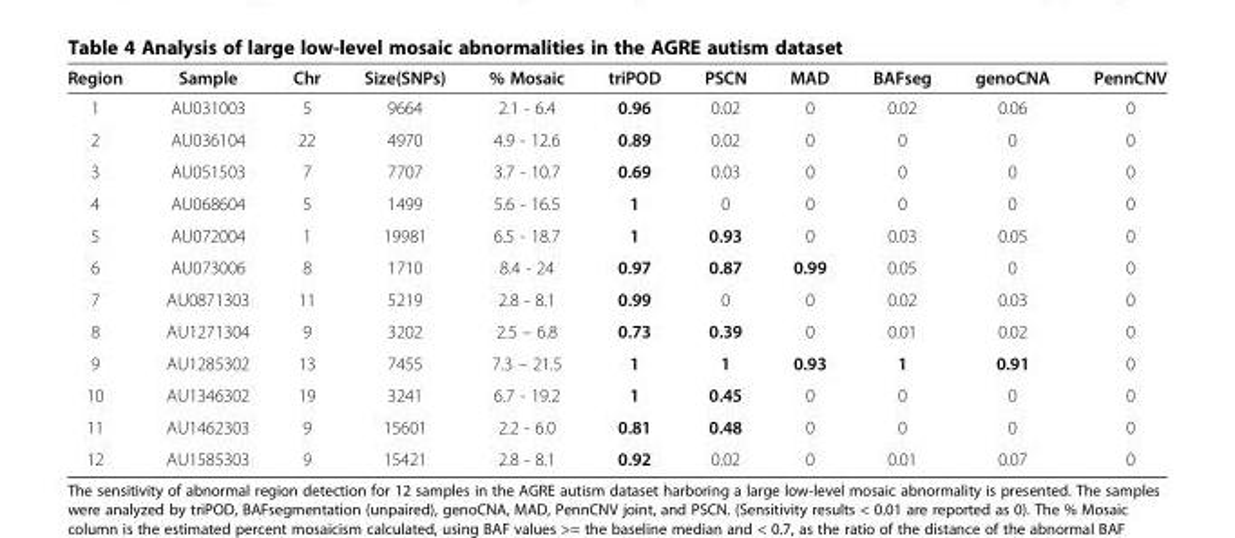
<table><thead><tr><td>Region</td><td>Sample</td><td>Chr</td><td>Size(SNPs)</td><td>% Mosaic</td><td>triPOD</td><td>PSCN</td><td>MAD</td><td>BAFseg</td><td>genoCNA</td><td>PennCNV</td></tr></thead><tbody><tr><td>1</td><td>AU031003</td><td>5</td><td>9664</td><td>2.1 - 6.4</td><td>0.96</td><td>0.02</td><td>0</td><td>0.02</td><td>0.06</td><td>0</td></tr><tr><td>2</td><td>AU036104</td><td>22</td><td>4970</td><td>4.9 - 12.6</td><td>0.89</td><td>0.02</td><td>0</td><td>0</td><td>0</td><td>0</td></tr><tr><td>3</td><td>AU051503</td><td>7</td><td>7707</td><td>3.7 - 10.7</td><td>0.69</td><td>0.03</td><td>0</td><td>0</td><td>0</td><td>0</td></tr><tr><td>4</td><td>AU068604</td><td>5</td><td>1499</td><td>5.6 - 16.5</td><td>1</td><td>0</td><td>0</td><td>0</td><td>0</td><td>0</td></tr><tr><td>5</td><td>AU072004</td><td>1</td><td>19981</td><td>6.5 - 18.7</td><td>1</td><td>0.93</td><td>0</td><td>0.03</td><td>0.05</td><td>0</td></tr><tr><td>6</td><td>AU073006</td><td>8</td><td>1710</td><td>8.4 - 24</td><td>0.97</td><td>0.87</td><td>0.99</td><td>0.05</td><td>0</td><td>0</td></tr><tr><td>7</td><td>AU0871303</td><td>11</td><td>5219</td><td>2.8 - 8.1</td><td>0.99</td><td>0</td><td>0</td><td>0.02</td><td>0.03</td><td>0</td></tr><tr><td>8</td><td>AU1271304</td><td>9</td><td>3202</td><td>2.5 – 6.8</td><td>0.73</td><td>0.39</td><td>0</td><td>0.01</td><td>0.02</td><td>0</td></tr><tr><td>9</td><td>AU1285302</td><td>13</td><td>7455</td><td>7.3 – 21.5</td><td>1</td><td>1</td><td>0.93</td><td>1</td><td>0.91</td><td>0</td></tr><tr><td>10</td><td>AU1346302</td><td>19</td><td>3241</td><td>6.7 - 19.2</td><td>1</td><td>0.45</td><td>0</td><td>0</td><td>0</td><td>0</td></tr><tr><td>11</td><td>AU1462303</td><td>9</td><td>15601</td><td>2.2 - 6.0</td><td>0.81</td><td>0.48</td><td>0</td><td>0</td><td>0</td><td>0</td></tr><tr><td>12</td><td>AU1585303</td><td>9</td><td>15421</td><td>2.8 - 8.1</td><td>0.92</td><td>0.02</td><td>0</td><td>0.01</td><td>0.07</td><td>0</td></tr></tbody></table>